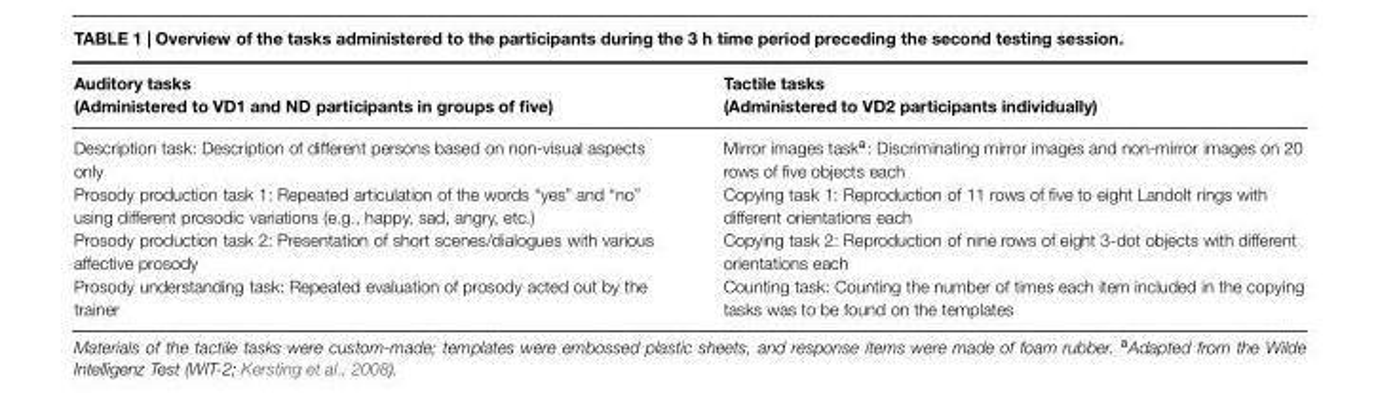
<table><thead><tr><td>Auditory tasks (Administered to VD1 and ND participants in groups of five)</td><td>Tactile tasks (Administered to VD2 participants individually)</td></tr></thead><tbody><tr><td>Description task: Description of different persons based on non-visual aspects only Prosody production task 1: Repeated articulation of the words “yes” and “no” using different prosodic variations (e.g., happy, sad, angry, etc.) Prosody production task 2: Presentation of short scenes/dialogues with various affective prosody Prosody understanding task: Repeated evaluation of prosody acted out by the trainer</td><td>Mirror images task<sup>a</sup>: Discriminating mirror images and non-mirror images on 20 rows of five objects each Copying task 1: Reproduction of 11 rows of five to eight Landolt rings with different orientations each Copying task 2: Reproduction of nine rows of eight 3-dot objects with different orientations each Counting task: Counting the number of times each item included in the copying tasks was to be found on the templates</td></tr></tbody></table>